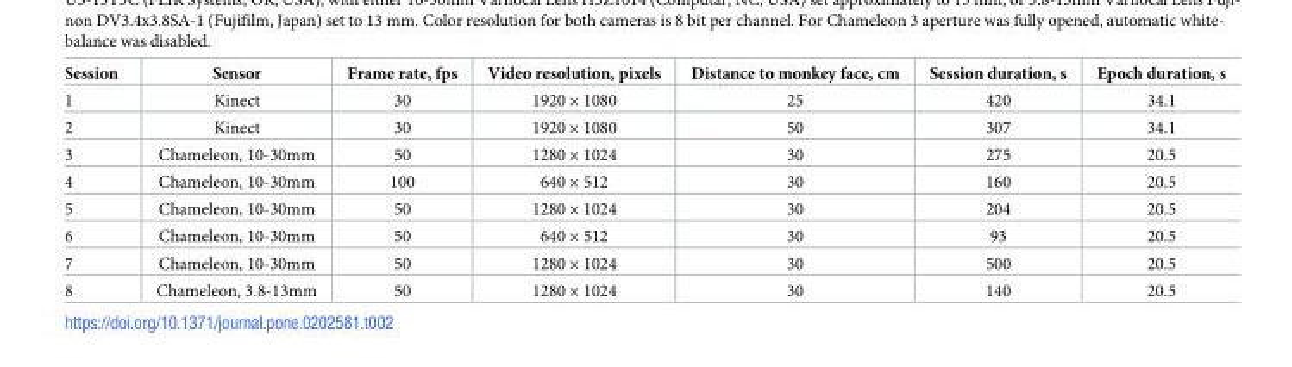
<table><thead><tr><td>Session</td><td>Sensor</td><td>Frame rate, fps</td><td>Video resolution, pixels</td><td>Distance to monkey face, cm</td><td>Session duration, s</td><td>Epoch duration, s</td></tr></thead><tbody><tr><td>1</td><td>Kinect</td><td>30</td><td>1920 × 1080</td><td>25</td><td>420</td><td>34.1</td></tr><tr><td>2</td><td>Kinect</td><td>30</td><td>1920 × 1080</td><td>50</td><td>307</td><td>34.1</td></tr><tr><td>3</td><td>Chameleon, 10-30mm</td><td>50</td><td>1280 × 1024</td><td>30</td><td>275</td><td>20.5</td></tr><tr><td>4</td><td>Chameleon, 10-30mm</td><td>100</td><td>640 × 512</td><td>30</td><td>160</td><td>20.5</td></tr><tr><td>5</td><td>Chameleon, 10-30mm</td><td>50</td><td>1280 × 1024</td><td>30</td><td>204</td><td>20.5</td></tr><tr><td>6</td><td>Chameleon, 10-30mm</td><td>50</td><td>640 × 512</td><td>30</td><td>93</td><td>20.5</td></tr><tr><td>7</td><td>Chameleon, 10-30mm</td><td>50</td><td>1280 × 1024</td><td>30</td><td>500</td><td>20.5</td></tr><tr><td>8</td><td>Chameleon, 3.8-13mm</td><td>50</td><td>1280 × 1024</td><td>30</td><td>140</td><td>20.5</td></tr></tbody></table>